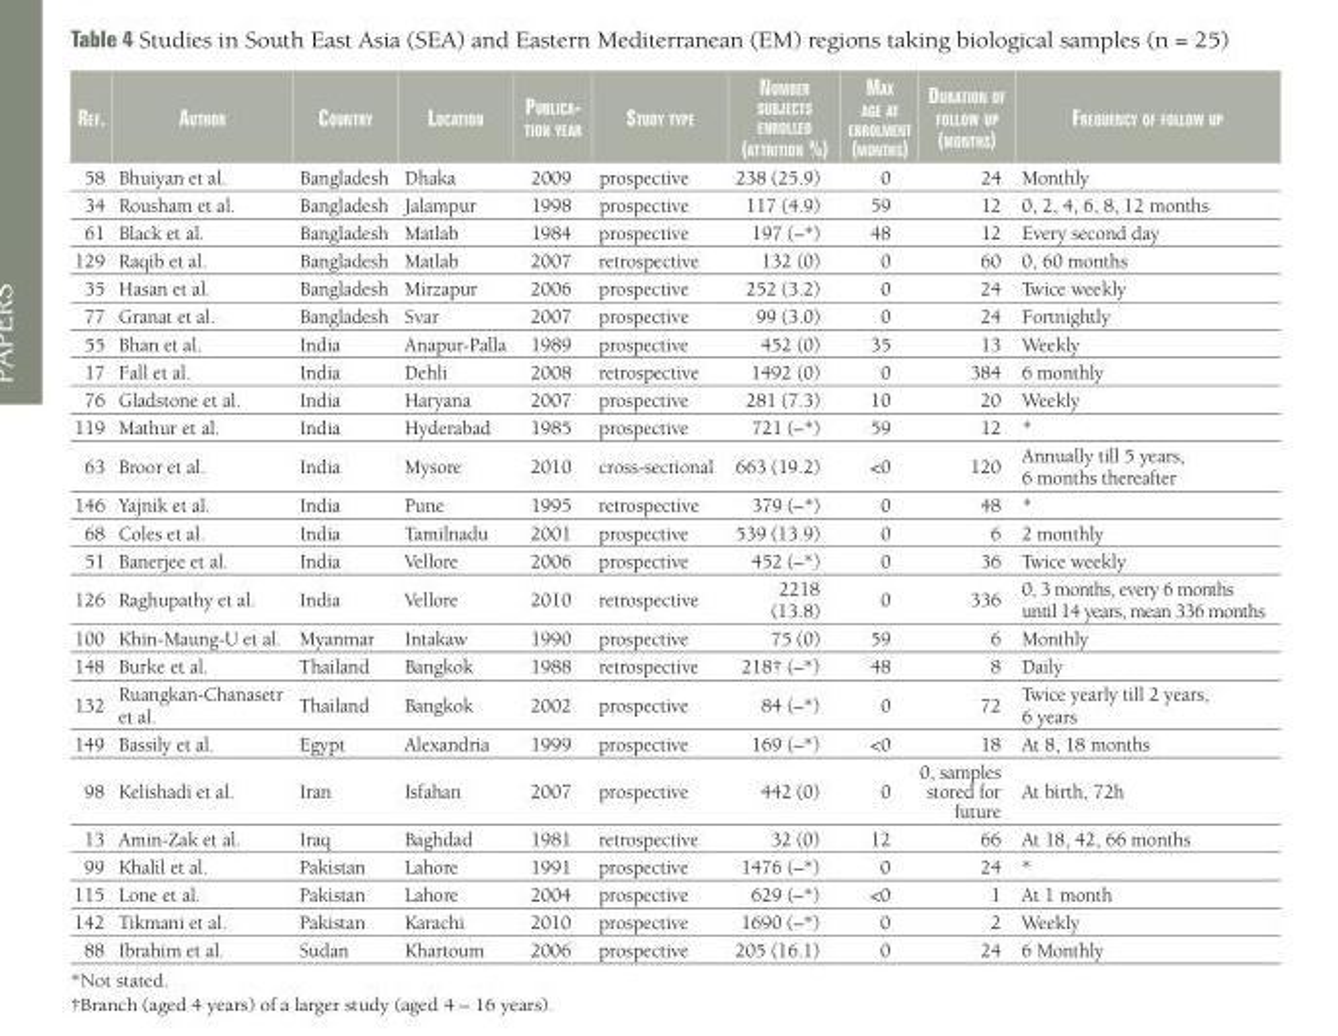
<table><thead><tr><td>ref.</td><td>author</td><td>Country</td><td>LoCation</td><td>PubLiCa- tion year</td><td>study tyPe</td><td>number subjeCts enroLLed (attrition %)</td><td>max age at enroLment (months)</td><td>duration of foLLoW uP (months)</td><td>frequenCy of foLLoW uP</td></tr></thead><tbody><tr><td>58</td><td>Bhuiyan et al.</td><td>Bangladesh</td><td>Dhaka</td><td>2009</td><td>prospective</td><td>238 (25.9)</td><td>0</td><td>24</td><td>Monthly</td></tr><tr><td>34</td><td>Rousham et al.</td><td>Bangladesh</td><td>Jalampur</td><td>1998</td><td>prospective</td><td>117 (4.9)</td><td>59</td><td>12</td><td>0, 2, 4, 6, 8, 12 months</td></tr><tr><td>61</td><td>Black et al.</td><td>Bangladesh</td><td>Matlab</td><td>1984</td><td>prospective</td><td>197 (–*)</td><td>48</td><td>12</td><td>Every second day</td></tr><tr><td>129</td><td>Raqib et al.</td><td>Bangladesh</td><td>Matlab</td><td>2007</td><td>retrospective</td><td>132 (0)</td><td>0</td><td>60</td><td>0, 60 months</td></tr><tr><td>35</td><td>Hasan et al.</td><td>Bangladesh</td><td>Mirzapur</td><td>2006</td><td>prospective</td><td>252 (3.2)</td><td>0</td><td>24</td><td>Twice weekly</td></tr><tr><td>77</td><td>Granat et al.</td><td>Bangladesh</td><td>Svar</td><td>2007</td><td>prospective</td><td>99 (3.0)</td><td>0</td><td>24</td><td>Fortnightly</td></tr><tr><td>55</td><td>Bhan et al.</td><td>India</td><td>Anapur-Palla</td><td>1989</td><td>prospective</td><td>452 (0)</td><td>35</td><td>13</td><td>Weekly</td></tr><tr><td>17</td><td>Fall et al.</td><td>India</td><td>Dehli</td><td>2008</td><td>retrospective</td><td>1492 (0)</td><td>0</td><td>384</td><td>6 monthly</td></tr><tr><td>76</td><td>Gladstone et al.</td><td>India</td><td>Haryana</td><td>2007</td><td>prospective</td><td>281 (7.3)</td><td>10</td><td>20</td><td>Weekly</td></tr><tr><td>119</td><td>Mathur et al.</td><td>India</td><td>Hyderabad</td><td>1985</td><td>prospective</td><td>721 (–*)</td><td>59</td><td>12</td><td>*</td></tr><tr><td>63</td><td>Broor et al.</td><td>India</td><td>Mysore</td><td>2010</td><td>cross-sectional</td><td>663 (19.2)</td><td>&lt;0</td><td>120</td><td>Annually till 5 years, 6 months thereafter</td></tr><tr><td>146</td><td>Yajnik et al.</td><td>India</td><td>Pune</td><td>1995</td><td>retrospective</td><td>379 (–*)</td><td>0</td><td>48</td><td>*</td></tr><tr><td>68</td><td>Coles et al.</td><td>India</td><td>Tamilnadu</td><td>2001</td><td>prospective</td><td>539 (13.9)</td><td>0</td><td>6</td><td>2 monthly</td></tr><tr><td>51</td><td>Banerjee et al.</td><td>India</td><td>Vellore</td><td>2006</td><td>prospective</td><td>452 (–*)</td><td>0</td><td>36</td><td>Twice weekly</td></tr><tr><td>126</td><td>Raghupathy et al.</td><td>India</td><td>Vellore</td><td>2010</td><td>retrospective</td><td>2218 (13.8)</td><td>0</td><td>336</td><td>0, 3 months, every 6 months until 14 years, mean 336 months</td></tr><tr><td>100</td><td>Khin-Maung-U et al.</td><td>Myanmar</td><td>Intakaw</td><td>1990</td><td>prospective</td><td>75 (0)</td><td>59</td><td>6</td><td>Monthly</td></tr><tr><td>148</td><td>Burke et al.</td><td>Thailand</td><td>Bangkok</td><td>1988</td><td>retrospective</td><td>218† (–*)</td><td>48</td><td>8</td><td>Daily</td></tr><tr><td>132</td><td>Ruangkan-Chanasetr et al.</td><td>Thailand</td><td>Bangkok</td><td>2002</td><td>prospective</td><td>84 (–*)</td><td>0</td><td>72</td><td>Twice yearly till 2 years, 6 years</td></tr><tr><td>149</td><td>Bassily et al.</td><td>Egypt</td><td>Alexandria</td><td>1999</td><td>prospective</td><td>169 (–*)</td><td>&lt;0</td><td>18</td><td>At 8, 18 months</td></tr><tr><td>98</td><td>Kelishadi et al.</td><td>Iran</td><td>Isfahan</td><td>2007</td><td>prospective</td><td>442 (0)</td><td>0</td><td>0, samples stored for future</td><td>At birth, 72h</td></tr><tr><td>13</td><td>Amin-Zak et al.</td><td>Iraq</td><td>Baghdad</td><td>1981</td><td>retrospective</td><td>32 (0)</td><td>12</td><td>66</td><td>At 18, 42, 66 months</td></tr><tr><td>99</td><td>Khalil et al.</td><td>Pakistan</td><td>Lahore</td><td>1991</td><td>prospective</td><td>1476 (–*)</td><td>0</td><td>24</td><td>*</td></tr><tr><td>115</td><td>Lone et al.</td><td>Pakistan</td><td>Lahore</td><td>2004</td><td>prospective</td><td>629 (–*)</td><td>&lt;0</td><td>1</td><td>At 1 month</td></tr><tr><td>142</td><td>Tikmani et al.</td><td>Pakistan</td><td>Karachi</td><td>2010</td><td>prospective</td><td>1690 (–*)</td><td>0</td><td>2</td><td>Weekly</td></tr><tr><td>88</td><td>Ibrahim et al.</td><td>Sudan</td><td>Khartoum</td><td>2006</td><td>prospective</td><td>205 (16.1)</td><td>0</td><td>24</td><td>6 Monthly</td></tr></tbody></table>